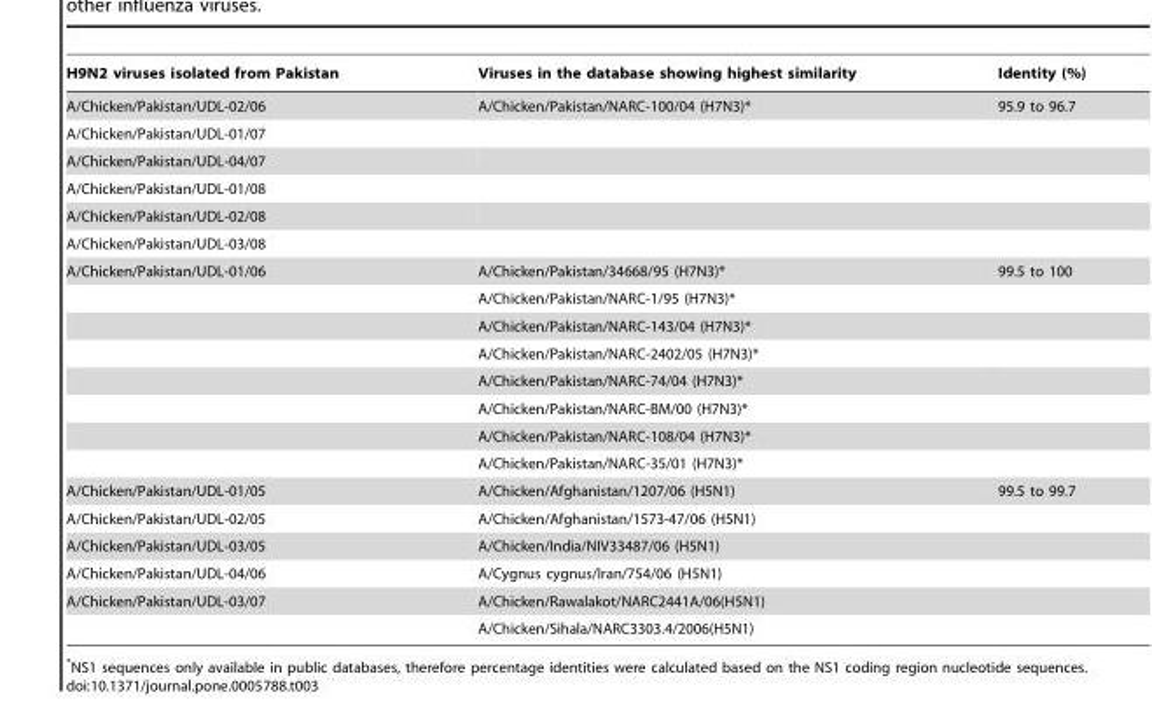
<table><thead><tr><td>H9N2 viruses isolated from Pakistan</td><td>Viruses in the database showing highest similarity</td><td>Identity (%)</td></tr></thead><tbody><tr><td>A/Chicken/Pakistan/UDL-02/06</td><td>A/Chicken/Pakistan/NARC-100/04 (H7N3)*</td><td>95.9 to 96.7</td></tr><tr><td colspan="3">A/Chicken/Pakistan/UDL-01/07</td></tr><tr><td colspan="3">A/Chicken/Pakistan/UDL-04/07</td></tr><tr><td colspan="3">A/Chicken/Pakistan/UDL-01/08</td></tr><tr><td colspan="3">A/Chicken/Pakistan/UDL-02/08</td></tr><tr><td colspan="3">A/Chicken/Pakistan/UDL-03/08</td></tr><tr><td rowspan="8">A/Chicken/Pakistan/UDL-01/06</td><td>A/Chicken/Pakistan/34668/95 (H7N3)*</td><td>99.5 to 100</td></tr><tr><td>A/Chicken/Pakistan/NARC-1/95 (H7N3)*</td><td></td></tr><tr><td>A/Chicken/Pakistan/NARC-143/04 (H7N3)*</td><td></td></tr><tr><td>A/Chicken/Pakistan/NARC-2402/05 (H7N3)*</td><td></td></tr><tr><td>A/Chicken/Pakistan/NARC-74/04 (H7N3)*</td><td></td></tr><tr><td>A/Chicken/Pakistan/NARC-BM/00 (H7N3)*</td><td></td></tr><tr><td>A/Chicken/Pakistan/NARC-108/04 (H7N3)*</td><td></td></tr><tr><td>A/Chicken/Pakistan/NARC-35/01 (H7N3)*</td><td></td></tr><tr><td>A/Chicken/Pakistan/UDL-01/05</td><td>A/Chicken/Afghanistan/1207/06 (H5N1)</td><td>99.5 to 99.7</td></tr><tr><td>A/Chicken/Pakistan/UDL-02/05</td><td>A/Chicken/Afghanistan/1573-47/06 (H5N1)</td><td></td></tr><tr><td>A/Chicken/Pakistan/UDL-03/05</td><td>A/Chicken/India/NIV33487/06 (H5N1)</td><td></td></tr><tr><td>A/Chicken/Pakistan/UDL-04/06</td><td>A/Cygnus cygnus/Iran/754/06 (H5N1)</td><td></td></tr><tr><td rowspan="2">A/Chicken/Pakistan/UDL-03/07</td><td>A/Chicken/Rawalakot/NARC2441A/06(H5N1)</td><td></td></tr><tr><td>A/Chicken/Sihala/NARC3303.4/2006(H5N1)</td><td></td></tr></tbody></table>